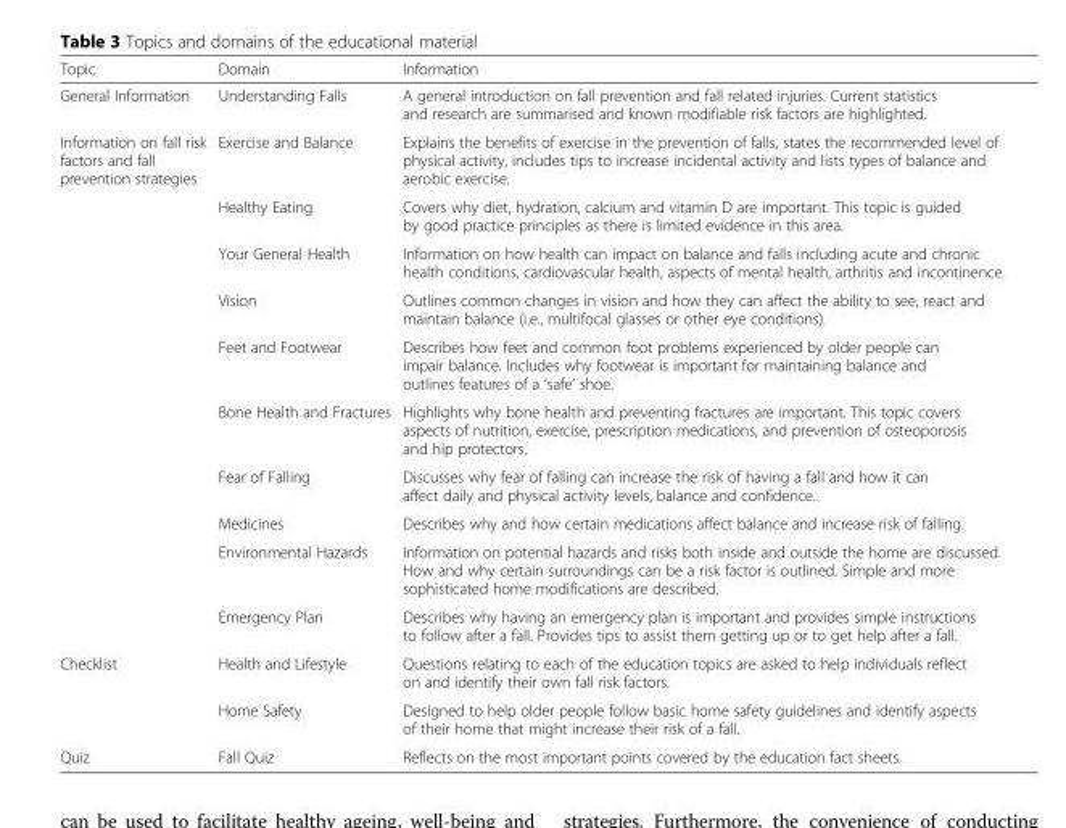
<table><thead><tr><td>Topic</td><td>Domain</td><td>Information</td></tr></thead><tbody><tr><td>General Information</td><td>Understanding Falls</td><td>A general introduction on fall prevention and fall related injuries. Current statistics and research are summarised and known modifiable risk factors are highlighted.</td></tr><tr><td rowspan="10">Information on fall risk factors and fall prevention strategies</td><td>Exercise and Balance</td><td>Explains the benefits of exercise in the prevention of falls, states the recommended level of physical activity, includes tips to increase incidental activity and lists types of balance and aerobic exercise.</td></tr><tr><td>Healthy Eating</td><td>Covers why diet, hydration, calcium and vitamin D are important. This topic is guided by good practice principles as there is limited evidence in this area.</td></tr><tr><td>Your General Health</td><td>Information on how health can impact on balance and falls including acute and chronic health conditions, cardiovascular health, aspects of mental health, arthritis and incontinence.</td></tr><tr><td>Vision</td><td>Outlines common changes in vision and how they can affect the ability to see, react and maintain balance (i.e., multifocal glasses or other eye conditions).</td></tr><tr><td>Feet and Footwear</td><td>Describes how feet and common foot problems experienced by older people can impair balance. Includes why footwear is important for maintaining balance and outlines features of a ‘safe’ shoe.</td></tr><tr><td>Bone Health and Fractures</td><td>Highlights why bone health and preventing fractures are important. This topic covers aspects of nutrition, exercise, prescription medications, and prevention of osteoporosis and hip protectors.</td></tr><tr><td>Fear of Falling</td><td>Discusses why fear of falling can increase the risk of having a fall and how it can affect daily and physical activity levels, balance and confidence.</td></tr><tr><td>Medicines</td><td>Describes why and how certain medications affect balance and increase risk of falling.</td></tr><tr><td>Environmental Hazards</td><td>Information on potential hazards and risks both inside and outside the home are discussed. How and why certain surroundings can be a risk factor is outlined. Simple and more sophisticated home modifications are described.</td></tr><tr><td>Emergency Plan</td><td>Describes why having an emergency plan is important and provides simple instructions to follow after a fall. Provides tips to assist them getting up or to get help after a fall.</td></tr><tr><td rowspan="2">Checklist</td><td>Health and Lifestyle</td><td>Questions relating to each of the education topics are asked to help individuals reflect on and identify their own fall risk factors.</td></tr><tr><td>Home Safety</td><td>Designed to help older people follow basic home safety guidelines and identify aspects of their home that might increase their risk of a fall.</td></tr><tr><td>Quiz</td><td>Fall Quiz</td><td>Reflects on the most important points covered by the education fact sheets.</td></tr></tbody></table>